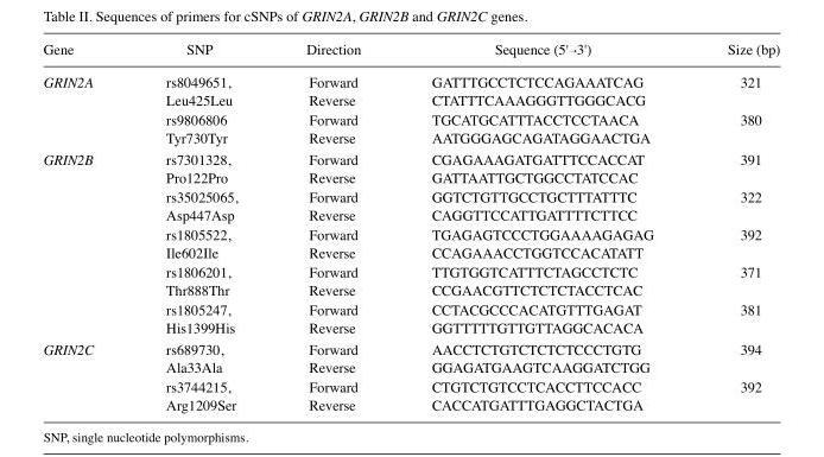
<table><thead><tr><td>Gene</td><td>SNP</td><td>Direction</td><td>Sequence (5&#x27;→3&#x27;)</td><td>Size (bp)</td></tr></thead><tbody><tr><td rowspan="4">GRIN2A</td><td rowspan="2">rs8049651, Leu425Leu</td><td>Forward</td><td>GATTTGCCTCTCCAGAAATCAG</td><td>321</td></tr><tr><td>Reverse</td><td>CTATTTCAAAGGGTTGGGCACG</td><td></td></tr><tr><td>rs9806806</td><td>Forward</td><td>TGCATGCATTTACCTCCTAACA</td><td>380</td></tr><tr><td>Tyr730Tyr</td><td>Reverse</td><td>AATGGGAGCAGATAGGAACTGA</td><td></td></tr><tr><td rowspan="10">GRIN2B</td><td rowspan="2">rs7301328, Pro122Pro</td><td>Forward</td><td>CGAGAAAGATGATTTCCACCAT</td><td>391</td></tr><tr><td>Reverse</td><td>GATTAATTGCTGGCCTATCCAC</td><td></td></tr><tr><td rowspan="2">rs35025065, Asp447Asp</td><td>Forward</td><td>GGTCTGTTGCCTGCTTTATTTC</td><td>322</td></tr><tr><td>Reverse</td><td>CAGGTTCCATTGATTTTCTTCC</td><td></td></tr><tr><td rowspan="2">rs1805522, Ile602Ile</td><td>Forward</td><td>TGAGAGTCCCTGGAAAAGAGAG</td><td>392</td></tr><tr><td>Reverse</td><td>CCAGAAACCTGGTCCACATATT</td><td></td></tr><tr><td rowspan="2">rs1806201, Thr888Thr</td><td>Forward</td><td>TTGTGGTCATTTCTAGCCTCTC</td><td>371</td></tr><tr><td>Reverse</td><td>CCGAACGTTCTCTCTACCTCAC</td><td></td></tr><tr><td rowspan="2">rs1805247, His1399His</td><td>Forward</td><td>CCTACGCCCACATGTTTGAGAT</td><td>381</td></tr><tr><td>Reverse</td><td>GGTTTTTGTTGTTAGGCACACA</td><td></td></tr><tr><td rowspan="4">GRIN2C</td><td rowspan="2">rs689730, Ala33Ala</td><td>Forward</td><td>AACCTCTGTCTCTCTCCCTGTG</td><td>394</td></tr><tr><td>Reverse</td><td>GGAGATGAAGTCAAGGATCTGG</td><td></td></tr><tr><td rowspan="2">rs3744215, Arg1209Ser</td><td>Forward</td><td>CTGTCTGTCCTCACCTTCCACC</td><td>392</td></tr><tr><td>Reverse</td><td>CACCATGATTTGAGGCTACTGA</td><td></td></tr></tbody></table>